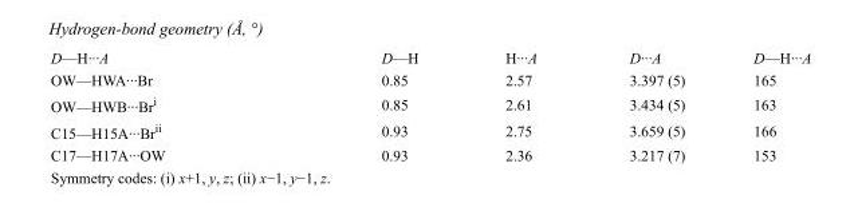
<table><tbody><tr><td>D—H···A</td><td>D—H</td><td>H···A</td><td>D···A</td><td>D—H···A</td></tr><tr><td>OW—HWA···Br</td><td>0.85</td><td>2.57</td><td>3.397 (5)</td><td>165</td></tr><tr><td>OW—HWB···Br<sup>i</sup></td><td>0.85</td><td>2.61</td><td>3.434 (5)</td><td>163</td></tr><tr><td>C15—H15A···Br<sup>ii</sup></td><td>0.93</td><td>2.75</td><td>3.659 (5)</td><td>166</td></tr><tr><td>C17—H17A···OW</td><td>0.93</td><td>2.36</td><td>3.217 (7)</td><td>153</td></tr></tbody></table>